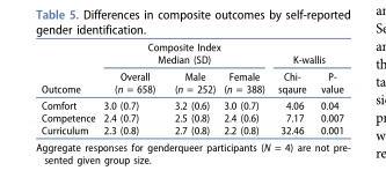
<table><thead><tr><td rowspan="2">Outcome</td><td colspan="3">Composite Index Median (SD)</td><td colspan="2">K-wallis</td></tr><tr><td>Overall (n = 658)</td><td>Male (n = 252)</td><td>Female (n = 388)</td><td>Chi- sqaure</td><td>P- value</td></tr></thead><tbody><tr><td>Comfort</td><td>3.0 (0.7)</td><td>3.2 (0.6)</td><td>3.0 (0.7)</td><td>4.06</td><td>0.04</td></tr><tr><td>Competence</td><td>2.4 (0.7)</td><td>2.5 (0.8)</td><td>2.4 (0.6)</td><td>7.17</td><td>0.007</td></tr><tr><td>Curriculum</td><td>2.3 (0.8)</td><td>2.7 (0.8)</td><td>2.2 (0.8)</td><td>32.46</td><td>0.001</td></tr></tbody></table>